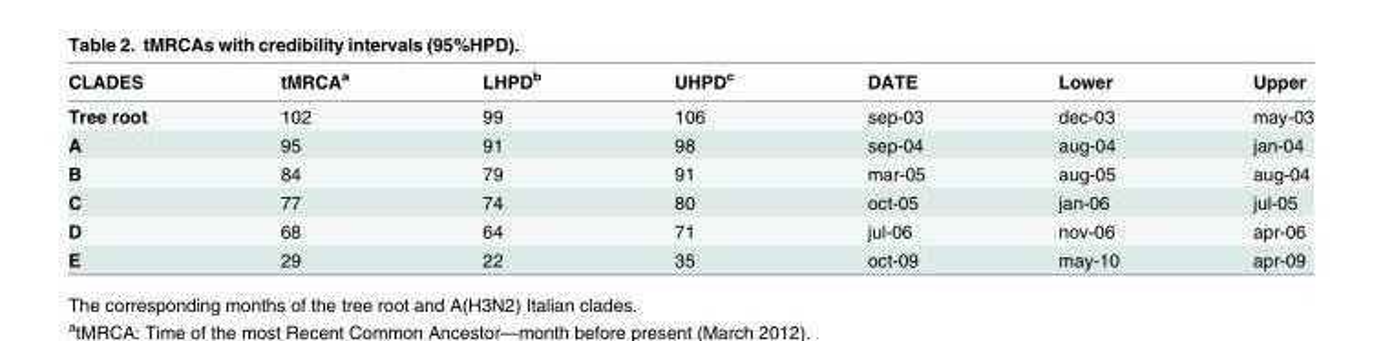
<table><thead><tr><td>CLADES</td><td>tMRCA<sup>a</sup></td><td>LHPD<sup>b</sup></td><td>UHPD<sup>c</sup></td><td>DATE</td><td>Lower</td><td>Upper</td></tr></thead><tbody><tr><td>Tree root</td><td>102</td><td>99</td><td>106</td><td>sep-03</td><td>dec-03</td><td>may-03</td></tr><tr><td>A</td><td>95</td><td>91</td><td>98</td><td>sep-04</td><td>aug-04</td><td>jan-04</td></tr><tr><td>B</td><td>84</td><td>79</td><td>91</td><td>mar-05</td><td>aug-05</td><td>aug-04</td></tr><tr><td>C</td><td>77</td><td>74</td><td>80</td><td>oct-05</td><td>jan-06</td><td>jul-05</td></tr><tr><td>D</td><td>68</td><td>64</td><td>71</td><td>jul-06</td><td>nov-06</td><td>apr-06</td></tr><tr><td>E</td><td>29</td><td>22</td><td>35</td><td>oct-09</td><td>may-10</td><td>apr-09</td></tr></tbody></table>